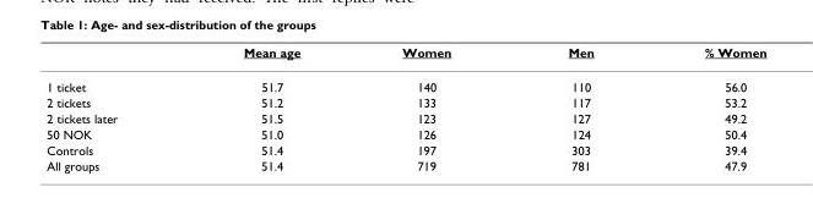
<table><thead><tr><td></td><td>Mean age</td><td>Women</td><td>Men</td><td>% Women</td></tr></thead><tbody><tr><td>1 ticket</td><td>51.7</td><td>140</td><td>110</td><td>56.0</td></tr><tr><td>2 tickets</td><td>51.2</td><td>133</td><td>117</td><td>53.2</td></tr><tr><td>2 tickets later</td><td>51.5</td><td>123</td><td>127</td><td>49.2</td></tr><tr><td>50 NOK</td><td>51.0</td><td>126</td><td>124</td><td>50.4</td></tr><tr><td>Controls</td><td>51.4</td><td>197</td><td>303</td><td>39.4</td></tr><tr><td>All groups</td><td>51.4</td><td>719</td><td>781</td><td>47.9</td></tr></tbody></table>